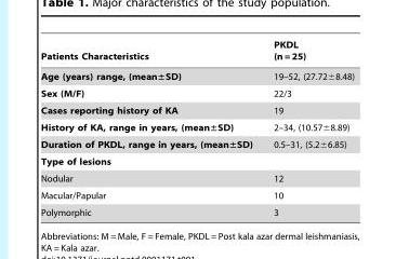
<table><thead><tr><td>Patients Characteristics</td><td>PKDL (n = 25)</td></tr></thead><tbody><tr><td>Age (years) range, (mean±SD)</td><td>19–52, (27.72±8.48)</td></tr><tr><td>Sex (M/F)</td><td>22/3</td></tr><tr><td>Cases reporting history of KA</td><td>19</td></tr><tr><td>History of KA, range in years, (mean±SD)</td><td>2–34, (10.57±8.89)</td></tr><tr><td>Duration of PKDL, range in years, (mean±SD)</td><td>0.5–31, (5.2±6.85)</td></tr><tr><td colspan="2">Type of lesions</td></tr><tr><td>Nodular</td><td>12</td></tr><tr><td>Macular/Papular</td><td>10</td></tr><tr><td>Polymorphic</td><td>3</td></tr></tbody></table>